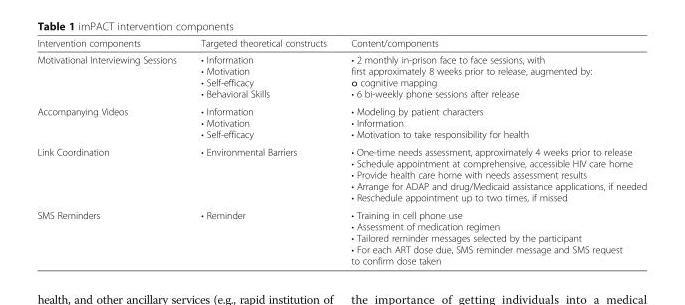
<table><thead><tr><td>Intervention components</td><td>Targeted theoretical constructs</td><td>Content/components</td></tr></thead><tbody><tr><td>Motivational Interviewing Sessions</td><td>• Information • Motivation • Self-efficacy • Behavioral Skills</td><td>• 2 monthly in-prison face to face sessions, with first approximately 8 weeks prior to release, augmented by: o cognitive mapping • 6 bi-weekly phone sessions after release</td></tr><tr><td>Accompanying Videos</td><td>• Information • Motivation • Self-efficacy</td><td>• Modeling by patient characters • Information • Motivation to take responsibility for health</td></tr><tr><td>Link Coordination</td><td>• Environmental Barriers</td><td>• One-time needs assessment, approximately 4 weeks prior to release • Schedule appointment at comprehensive, accessible HIV care home • Provide health care home with needs assessment results • Arrange for ADAP and drug/Medicaid assistance applications, if needed • Reschedule appointment up to two times, if missed</td></tr><tr><td>SMS Reminders</td><td>• Reminder</td><td>• Training in cell phone use • Assessment of medication regimen • Tailored reminder messages selected by the participant • For each ART dose due, SMS reminder message and SMS request to confirm dose taken</td></tr></tbody></table>